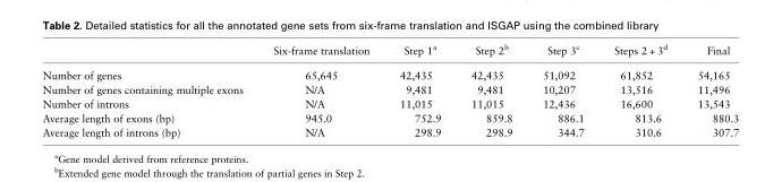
<table><thead><tr><td></td><td>Six-frame translation</td><td>Step 1<sup>a</sup></td><td>Step 2<sup>b</sup></td><td>Step 3<sup>c</sup></td><td>Steps 2 + 3<sup>d</sup></td><td>Final</td></tr></thead><tbody><tr><td>Number of genes</td><td>65,645</td><td>42,435</td><td>42,435</td><td>51,092</td><td>61,852</td><td>54,165</td></tr><tr><td>Number of genes containing multiple exons</td><td>N/A</td><td>9,481</td><td>9,481</td><td>10,207</td><td>13,516</td><td>11,496</td></tr><tr><td>Number of introns</td><td>N/A</td><td>11,015</td><td>11,015</td><td>12,436</td><td>16,600</td><td>13,543</td></tr><tr><td>Average length of exons (bp)</td><td>945.0</td><td>752.9</td><td>859.8</td><td>886.1</td><td>813.6</td><td>880.3</td></tr><tr><td>Average length of introns (bp)</td><td>N/A</td><td>298.9</td><td>298.9</td><td>344.7</td><td>310.6</td><td>307.7</td></tr></tbody></table>